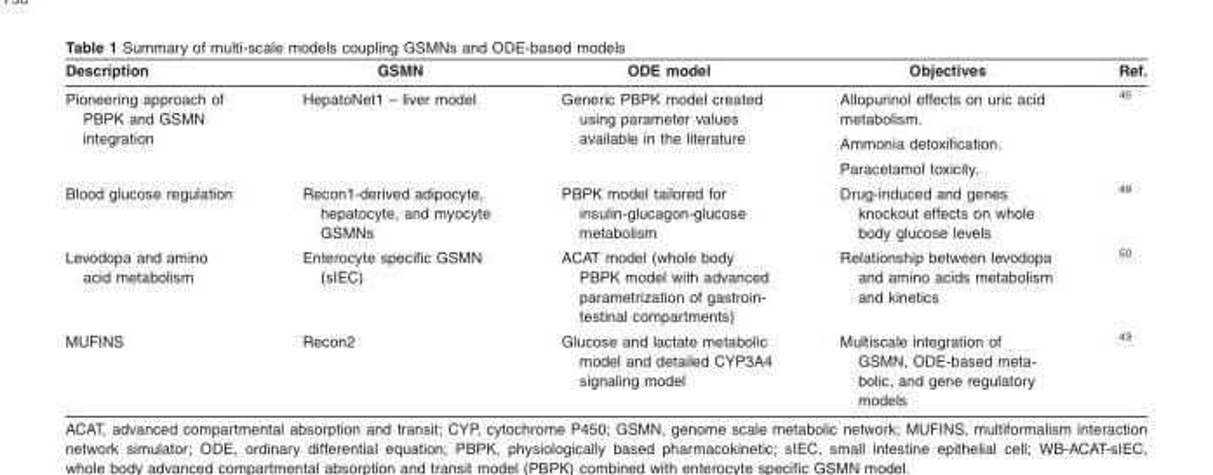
<table><thead><tr><td>Description</td><td>GSMN</td><td>ODE model</td><td>Objectives</td><td>Ref.</td></tr></thead><tbody><tr><td>Pioneering approach of PBPK and GSMN integration</td><td>HepatoNet1 – liver model</td><td>Generic PBPK model created using parameter values available in the literature</td><td>Allopurinol effects on uric acid metabolism. Ammonia detoxification. Paracetamol toxicity.</td><td>45</td></tr><tr><td>Blood glucose regulation</td><td>Recon1-derived adipocyte, hepatocyte, and myocyte GSMNs</td><td>PBPK model tailored for insulin-glucagon-glucose metabolism</td><td>Drug-induced and genes knockout effects on whole body glucose levels</td><td>49</td></tr><tr><td>Levodopa and amino acid metabolism</td><td>Enterocyte specific GSMN (sIEC)</td><td>ACAT model (whole body PBPK model with advanced parametrization of gastroin- testinal compartments)</td><td>Relationship between levodopa and amino acids metabolism and kinetics</td><td>50</td></tr><tr><td>MUFINS</td><td>Recon2</td><td>Glucose and lactate metabolic model and detailed CYP3A4 signaling model</td><td>Multiscale integration of GSMN, ODE-based meta- bolic, and gene regulatory models</td><td>43</td></tr></tbody></table>